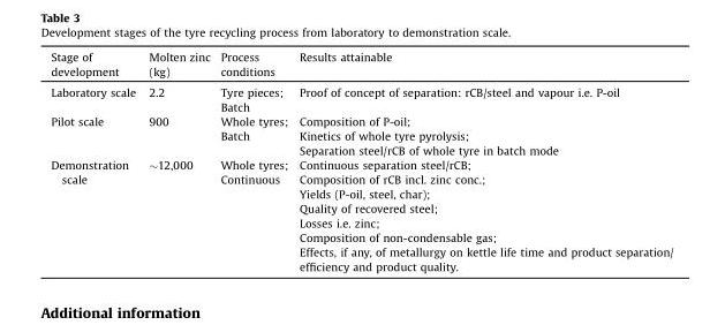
<table><thead><tr><td>Stage of development</td><td>Molten zinc (kg)</td><td>Process conditions</td><td>Results attainable</td></tr></thead><tbody><tr><td>Laboratory scale</td><td>2.2</td><td>Tyre pieces; Batch</td><td>Proof of concept of separation: rCB/steel and vapour i.e. P-oil</td></tr><tr><td>Pilot scale</td><td>900</td><td>Whole tyres; Batch</td><td>Composition of P-oil; Kinetics of whole tyre pyrolysis; Separation steel/rCB of whole tyre in batch mode</td></tr><tr><td>Demonstration scale</td><td>∼12,000</td><td>Whole tyres; Continuous</td><td>Continuous separation steel/rCB; Composition of rCB incl. zinc conc.; Yields (P-oil, steel, char); Quality of recovered steel; Losses i.e. zinc; Composition of non-condensable gas; Effects, if any, of metallurgy on kettle life time and product separation/ efficiency and product quality.</td></tr></tbody></table>